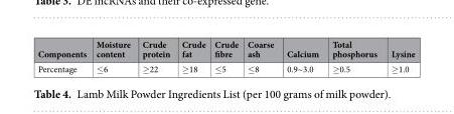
<table><thead><tr><td>Components</td><td>Moisture content</td><td>Crude protein</td><td>Crude fat</td><td>Crude fibre</td><td>Coarse ash</td><td>Calcium</td><td>Total phosphorus</td><td>Lysine</td></tr></thead><tbody><tr><td>Percentage</td><td>≤6</td><td>≥22</td><td>≥18</td><td>≤5</td><td>≤8</td><td>0.9~3.0</td><td>≥0.5</td><td>≥1.0</td></tr></tbody></table>